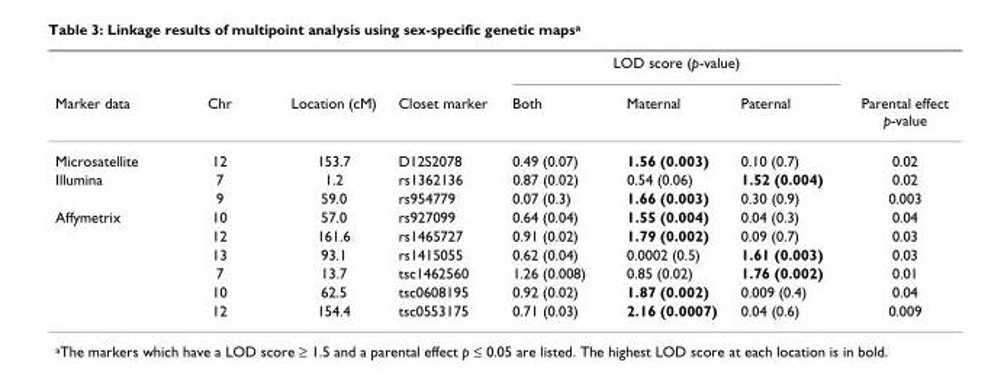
<table><thead><tr><td rowspan="2">Marker data</td><td rowspan="2">Chr</td><td rowspan="2">Location (cM)</td><td rowspan="2">Closet marker</td><td colspan="3">LOD score (p-value)</td><td rowspan="2">Parental effect p-value</td></tr><tr><td>Both</td><td>Maternal</td><td>Paternal</td></tr></thead><tbody><tr><td>Microsatellite</td><td>12</td><td>153.7</td><td>D12S2078</td><td>0.49 (0.07)</td><td>1.56 (0.003)</td><td>0.10 (0.7)</td><td>0.02</td></tr><tr><td rowspan="2">Illumina</td><td>7</td><td>1.2</td><td>rs1362136</td><td>0.87 (0.02)</td><td>0.54 (0.06)</td><td>1.52 (0.004)</td><td>0.02</td></tr><tr><td>9</td><td>59.0</td><td>rs954779</td><td>0.07 (0.3)</td><td>1.66 (0.003)</td><td>0.30 (0.9)</td><td>0.003</td></tr><tr><td rowspan="6">Affymetrix</td><td>10</td><td>57.0</td><td>rs927099</td><td>0.64 (0.04)</td><td>1.55 (0.004)</td><td>0.04 (0.3)</td><td>0.04</td></tr><tr><td>12</td><td>161.6</td><td>rs1465727</td><td>0.91 (0.02)</td><td>1.79 (0.002)</td><td>0.09 (0.7)</td><td>0.03</td></tr><tr><td>13</td><td>93.1</td><td>rs1415055</td><td>0.62 (0.04)</td><td>0.0002 (0.5)</td><td>1.61 (0.003)</td><td>0.03</td></tr><tr><td>7</td><td>13.7</td><td>tsc1462560</td><td>1.26 (0.008)</td><td>0.85 (0.02)</td><td>1.76 (0.002)</td><td>0.01</td></tr><tr><td>10</td><td>62.5</td><td>tsc0608195</td><td>0.92 (0.02)</td><td>1.87 (0.002)</td><td>0.009 (0.4)</td><td>0.04</td></tr><tr><td>12</td><td>154.4</td><td>tsc0553175</td><td>0.71 (0.03)</td><td>2.16 (0.0007)</td><td>0.04 (0.6)</td><td>0.009</td></tr></tbody></table>